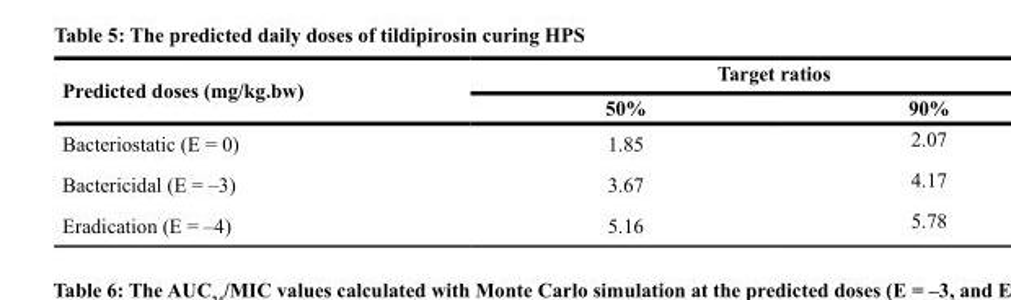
<table><thead><tr><td rowspan="2">Predicted doses (mg/kg.bw)</td><td colspan="2">Target ratios</td></tr><tr><td>50%</td><td>90%</td></tr></thead><tbody><tr><td>Bacteriostatic (E = 0)</td><td>1.85</td><td>2.07</td></tr><tr><td>Bactericidal (E = –3)</td><td>3.67</td><td>4.17</td></tr><tr><td>Eradication (E = –4)</td><td>5.16</td><td>5.78</td></tr></tbody></table>